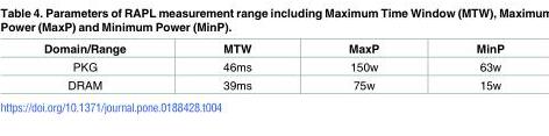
<table><thead><tr><td>Domain/Range</td><td>MTW</td><td>MaxP</td><td>MinP</td></tr></thead><tbody><tr><td>PKG</td><td>46ms</td><td>150w</td><td>63w</td></tr><tr><td>DRAM</td><td>39ms</td><td>75w</td><td>15w</td></tr></tbody></table>